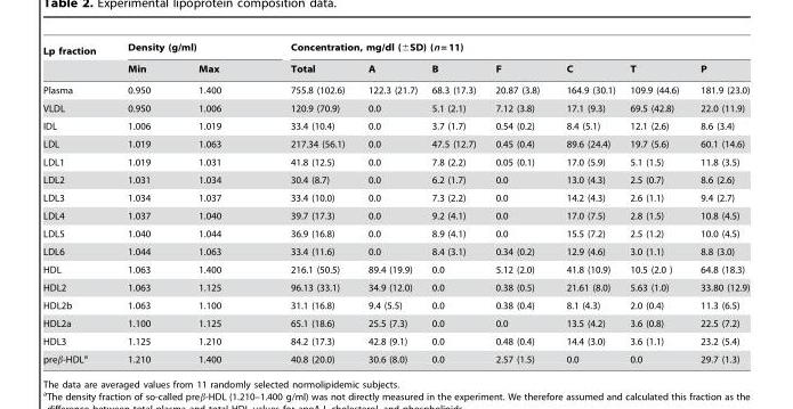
<table><thead><tr><td rowspan="2">Lp fraction</td><td colspan="2">Density (g/ml)</td><td colspan="7">Concentration, mg/dl (±SD) (n = 11)</td></tr><tr><td>Min</td><td>Max</td><td>Total</td><td>A</td><td>B</td><td>F</td><td>C</td><td>T</td><td>P</td></tr></thead><tbody><tr><td>Plasma</td><td>0.950</td><td>1.400</td><td>755.8 (102.6)</td><td>122.3 (21.7)</td><td>68.3 (17.3)</td><td>20.87 (3.8)</td><td>164.9 (30.1)</td><td>109.9 (44.6)</td><td>181.9 (23.0)</td></tr><tr><td>VLDL</td><td>0.950</td><td>1.006</td><td>120.9 (70.9)</td><td>0.0</td><td>5.1 (2.1)</td><td>7.12 (3.8)</td><td>17.1 (9.3)</td><td>69.5 (42.8)</td><td>22.0 (11.9)</td></tr><tr><td>IDL</td><td>1.006</td><td>1.019</td><td>33.4 (10.4)</td><td>0.0</td><td>3.7 (1.7)</td><td>0.54 (0.2)</td><td>8.4 (5.1)</td><td>12.1 (2.6)</td><td>8.6 (3.4)</td></tr><tr><td>LDL</td><td>1.019</td><td>1.063</td><td>217.34 (56.1)</td><td>0.0</td><td>47.5 (12.7)</td><td>0.45 (0.4)</td><td>89.6 (24.4)</td><td>19.7 (5.6)</td><td>60.1 (14.6)</td></tr><tr><td>LDL1</td><td>1.019</td><td>1.031</td><td>41.8 (12.5)</td><td>0.0</td><td>7.8 (2.2)</td><td>0.05 (0.1)</td><td>17.0 (5.9)</td><td>5.1 (1.5)</td><td>11.8 (3.5)</td></tr><tr><td>LDL2</td><td>1.031</td><td>1.034</td><td>30.4 (8.7)</td><td>0.0</td><td>6.2 (1.7)</td><td>0.0</td><td>13.0 (4.3)</td><td>2.5 (0.7)</td><td>8.6 (2.6)</td></tr><tr><td>LDL3</td><td>1.034</td><td>1.037</td><td>33.4 (10.0)</td><td>0.0</td><td>7.3 (2.2)</td><td>0.0</td><td>14.2 (4.3)</td><td>2.6 (1.1)</td><td>9.4 (2.7)</td></tr><tr><td>LDL4</td><td>1.037</td><td>1.040</td><td>39.7 (17.3)</td><td>0.0</td><td>9.2 (4.1)</td><td>0.0</td><td>17.0 (7.5)</td><td>2.8 (1.5)</td><td>10.8 (4.5)</td></tr><tr><td>LDL5</td><td>1.040</td><td>1.044</td><td>36.9 (16.8)</td><td>0.0</td><td>8.9 (4.1)</td><td>0.0</td><td>15.5 (7.2)</td><td>2.5 (1.2)</td><td>10.0 (4.5)</td></tr><tr><td>LDL6</td><td>1.044</td><td>1.063</td><td>33.4 (11.6)</td><td>0.0</td><td>8.4 (3.1)</td><td>0.34 (0.2)</td><td>12.9 (4.6)</td><td>3.0 (1.1)</td><td>8.8 (3.0)</td></tr><tr><td>HDL</td><td>1.063</td><td>1.400</td><td>216.1 (50.5)</td><td>89.4 (19.9)</td><td>0.0</td><td>5.12 (2.0)</td><td>41.8 (10.9)</td><td>10.5 (2.0 )</td><td>64.8 (18.3)</td></tr><tr><td>HDL2</td><td>1.063</td><td>1.125</td><td>96.13 (33.1)</td><td>34.9 (12.0)</td><td>0.0</td><td>0.38 (0.5)</td><td>21.61 (8.0)</td><td>5.63 (1.0)</td><td>33.80 (12.9)</td></tr><tr><td>HDL2b</td><td>1.063</td><td>1.100</td><td>31.1 (16.8)</td><td>9.4 (5.5)</td><td>0.0</td><td>0.38 (0.4)</td><td>8.1 (4.3)</td><td>2.0 (0.4)</td><td>11.3 (6.5)</td></tr><tr><td>HDL2a</td><td>1.100</td><td>1.125</td><td>65.1 (18.6)</td><td>25.5 (7.3)</td><td>0.0</td><td>0.0</td><td>13.5 (4.2)</td><td>3.6 (0.8)</td><td>22.5 (7.2)</td></tr><tr><td>HDL3</td><td>1.125</td><td>1.210</td><td>84.2 (17.3)</td><td>42.8 (9.1)</td><td>0.0</td><td>0.48 (0.4)</td><td>14.4 (3.0)</td><td>3.6 (1.1)</td><td>23.2 (5.4)</td></tr><tr><td>preβ-HDL<sup>a</sup></td><td>1.210</td><td>1.400</td><td>40.8 (20.0)</td><td>30.6 (8.0)</td><td>0.0</td><td>2.57 (1.5)</td><td>0.0</td><td>0.0</td><td>29.7 (1.3)</td></tr></tbody></table>